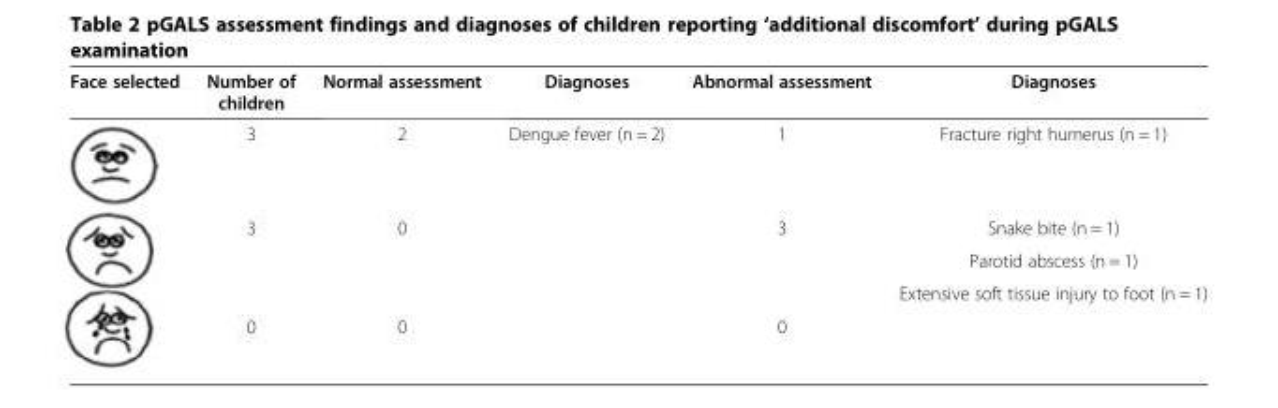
<table><thead><tr><td>Face selected</td><td>Number of children</td><td>Normal assessment</td><td>Diagnoses</td><td>Abnormal assessment</td><td>Diagnoses</td></tr></thead><tbody><tr><td></td><td>3</td><td>2</td><td>Dengue fever (n = 2)</td><td>1</td><td>Fracture right humerus (n = 1)</td></tr><tr><td rowspan="3"></td><td rowspan="3">3</td><td rowspan="3">0</td><td rowspan="3"></td><td rowspan="3">3</td><td>Snake bite (n = 1)</td></tr><tr><td>Parotid abscess (n = 1)</td></tr><tr><td>Extensive soft tissue injury to foot (n = 1)</td></tr><tr><td></td><td>0</td><td>0</td><td></td><td>0</td><td></td></tr></tbody></table>